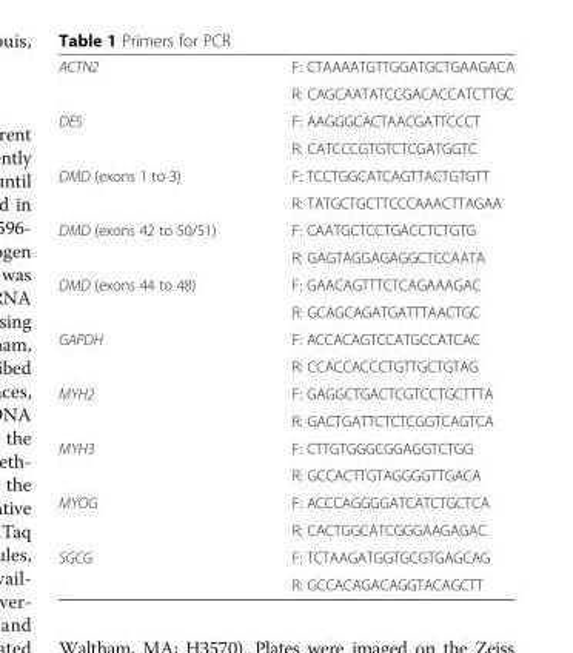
<table><tbody><tr><td rowspan="2">ACTN2</td><td>F: CTAAAATGTTGGATGCTGAAGACA</td></tr><tr><td>R: CAGCAATATCCGACACCATCTTGC</td></tr><tr><td rowspan="2">DES</td><td>F: AAGGGCACTAACGATTCCCT</td></tr><tr><td>R: CATCCCGTGTCTCGATGGTC</td></tr><tr><td rowspan="2">DMD (exons 1 to 3)</td><td>F: TCCTGGCATCAGTTACTGTGTT</td></tr><tr><td>R: TATGCTGCTTCCCAAACTTAGAA</td></tr><tr><td rowspan="2">DMD (exons 42 to 50/51)</td><td>F: CAATGCTCCTGACCTCTGTG</td></tr><tr><td>R: GAGTAGGAGAGGCTCCAATA</td></tr><tr><td rowspan="2">DMD (exons 44 to 48)</td><td>F: GAACAGTTTCTCAGAAAGAC</td></tr><tr><td>R: GCAGCAGATGATTTAACTGC</td></tr><tr><td rowspan="2">GAPDH</td><td>F: ACCACAGTCCATGCCATCAC</td></tr><tr><td>R: CCACCACCCTGTTGCTGTAG</td></tr><tr><td rowspan="2">MYH2</td><td>F: GAGGCTGACTCGTCCTGCTTTA</td></tr><tr><td>R: GACTGATTCTCTCGGTCAGTCA</td></tr><tr><td rowspan="2">MYH3</td><td>F: CTTGTGGGCGGAGGTCTGG</td></tr><tr><td>R: GCCACTTGTAGGGGTTGACA</td></tr><tr><td rowspan="2">MYOG</td><td>F: ACCCAGGGGATCATCTGCTCA</td></tr><tr><td>R: CACTGGCATCGGGAAGAGAC</td></tr><tr><td rowspan="2">SGCG</td><td>F: TCTAAGATGGTGCGTGAGCAG</td></tr><tr><td>R: GCCACAGACAGGTACAGCTT</td></tr></tbody></table>